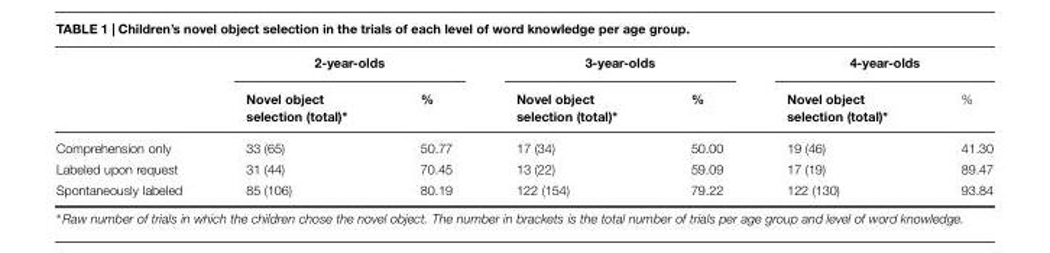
<table><thead><tr><td rowspan="2"></td><td colspan="2">2-year-olds</td><td colspan="2">3-year-olds</td><td colspan="2">4-year-olds</td></tr><tr><td>Novel object selection (total)∗</td><td>%</td><td>Novel object selection (total)∗</td><td>%</td><td>Novel object selection (total)∗</td><td>%</td></tr></thead><tbody><tr><td>Comprehension only</td><td>33 (65)</td><td>50.77</td><td>17 (34)</td><td>50.00</td><td>19 (46)</td><td>41.30</td></tr><tr><td>Labeled upon request</td><td>31 (44)</td><td>70.45</td><td>13 (22)</td><td>59.09</td><td>17 (19)</td><td>89.47</td></tr><tr><td>Spontaneously labeled</td><td>85 (106)</td><td>80.19</td><td>122 (154)</td><td>79.22</td><td>122 (130)</td><td>93.84</td></tr></tbody></table>